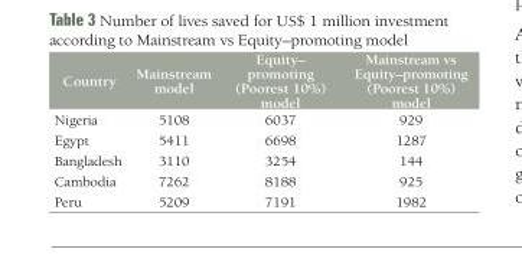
<table><thead><tr><td>Country</td><td>Mainstream model</td><td>Equity– promoting (Poorest 10%) model</td><td>Mainstream vs Equity–promoting (Poorest 10%) model</td></tr></thead><tbody><tr><td>Nigeria</td><td>5108</td><td>6037</td><td>929</td></tr><tr><td>Egypt</td><td>5411</td><td>6698</td><td>1287</td></tr><tr><td>Bangladesh</td><td>3110</td><td>3254</td><td>144</td></tr><tr><td>Cambodia</td><td>7262</td><td>8188</td><td>925</td></tr><tr><td>Peru</td><td>5209</td><td>7191</td><td>1982</td></tr></tbody></table>